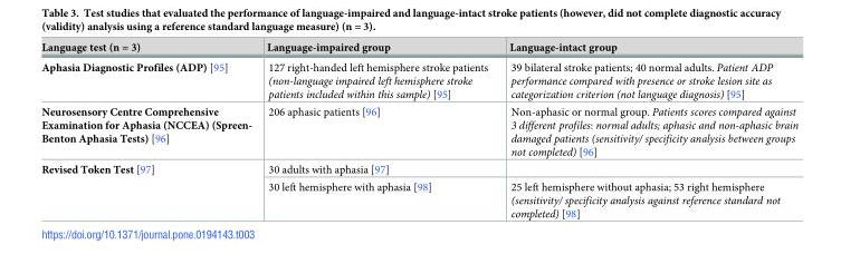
<table><thead><tr><td>Language test (n = 3)</td><td>Language-impaired group</td><td>Language-intact group</td></tr></thead><tbody><tr><td>Aphasia Diagnostic Profiles (ADP) [95]</td><td>127 right-handed left hemisphere stroke patients (non-language impaired left hemisphere stroke patients included within this sample) [95]</td><td>39 bilateral stroke patients; 40 normal adults. Patient ADP performance compared with presence or stroke lesion site as categorization criterion (not language diagnosis) [95]</td></tr><tr><td>Neurosensory Centre Comprehensive Examination for Aphasia (NCCEA) (Spreen- Benton Aphasia Tests) [96]</td><td>206 aphasic patients [96]</td><td>Non-aphasic or normal group. Patients scores compared against 3 different profiles: normal adults; aphasic and non-aphasic brain damaged patients (sensitivity/ specificity analysis between groups not completed) [96]</td></tr><tr><td rowspan="2">Revised Token Test [97]</td><td>30 adults with aphasia [97]</td><td></td></tr><tr><td>30 left hemisphere with aphasia [98]</td><td>25 left hemisphere without aphasia; 53 right hemisphere (sensitivity/ specificity analysis against reference standard not completed) [98]</td></tr></tbody></table>